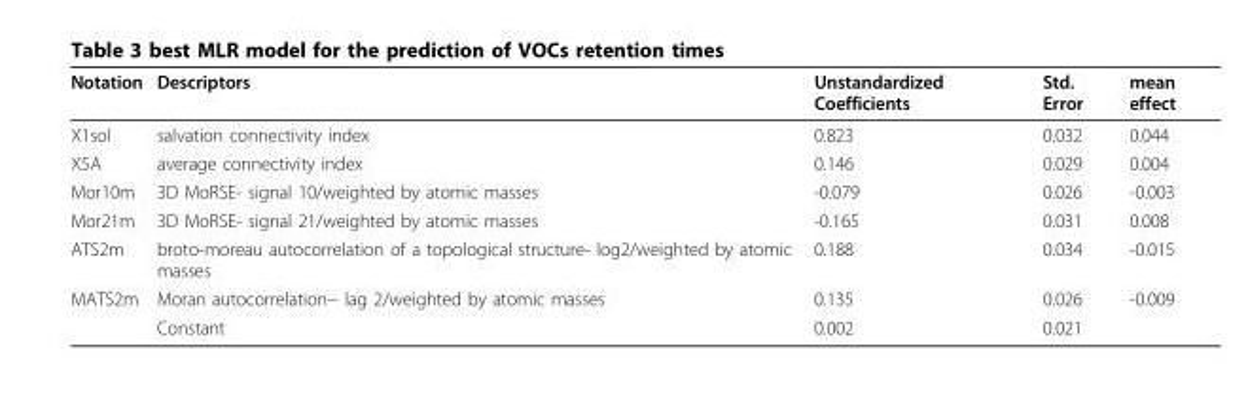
<table><thead><tr><td>Notation</td><td>Descriptors</td><td>Unstandardized Coefficients</td><td>Std. Error</td><td>mean effect</td></tr></thead><tbody><tr><td>X1sol</td><td>salvation connectivity index</td><td>0.823</td><td>0.032</td><td>0.044</td></tr><tr><td>X5A</td><td>average connectivity index</td><td>0.146</td><td>0.029</td><td>0.004</td></tr><tr><td>Mor10m</td><td>3D MoRSE- signal 10/weighted by atomic masses</td><td>-0.079</td><td>0.026</td><td>-0.003</td></tr><tr><td>Mor21m</td><td>3D MoRSE- signal 21/weighted by atomic masses</td><td>-0.165</td><td>0.031</td><td>0.008</td></tr><tr><td>ATS2m</td><td>broto-moreau autocorrelation of a topological structure- log2/weighted by atomic masses</td><td>0.188</td><td>0.034</td><td>-0.015</td></tr><tr><td rowspan="2">MATS2m</td><td>Moran autocorrelation− lag 2/weighted by atomic masses</td><td>0.135</td><td>0.026</td><td>-0.009</td></tr><tr><td>Constant</td><td>0.002</td><td>0.021</td><td></td></tr></tbody></table>